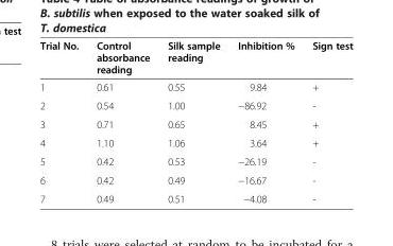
<table><thead><tr><td>Trial No.</td><td>Control absorbance reading</td><td>Silk sample reading</td><td>Inhibition %</td><td>Sign test</td></tr></thead><tbody><tr><td>1</td><td>0.61</td><td>0.55</td><td>9.84</td><td>+</td></tr><tr><td>2</td><td>0.54</td><td>1.00</td><td>−86.92</td><td>-</td></tr><tr><td>3</td><td>0.71</td><td>0.65</td><td>8.45</td><td>+</td></tr><tr><td>4</td><td>1.10</td><td>1.06</td><td>3.64</td><td>+</td></tr><tr><td>5</td><td>0.42</td><td>0.53</td><td>−26.19</td><td>-</td></tr><tr><td>6</td><td>0.42</td><td>0.49</td><td>−16.67</td><td>-</td></tr><tr><td>7</td><td>0.49</td><td>0.51</td><td>−4.08</td><td>-</td></tr></tbody></table>